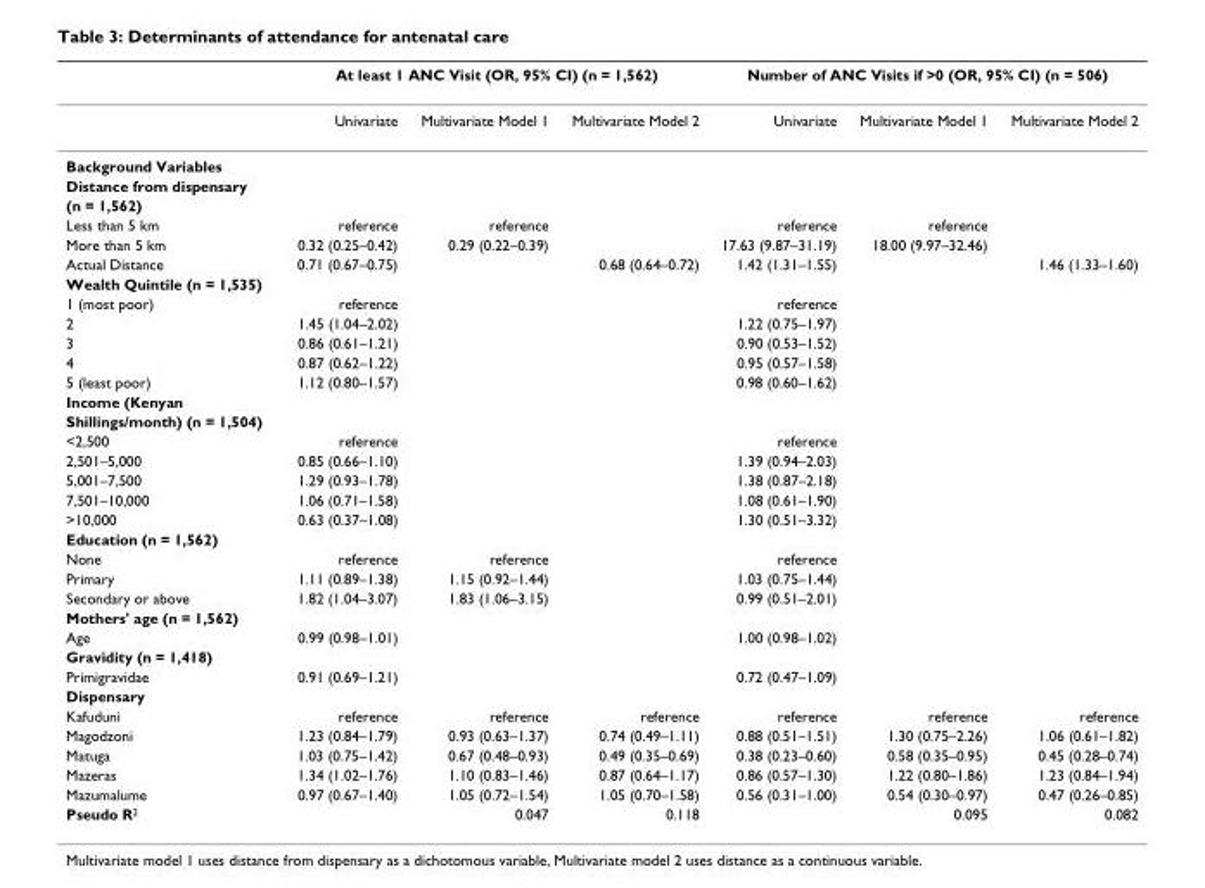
<table><thead><tr><td rowspan="2"></td><td colspan="3">At least 1 ANC Visit (OR, 95% CI) (n = 1,562)</td><td colspan="3">Number of ANC Visits if &gt;0 (OR, 95% CI) (n = 506)</td></tr><tr><td>Univariate</td><td>Multivariate Model 1</td><td>Multivariate Model 2</td><td>Univariate</td><td>Multivariate Model 1</td><td>Multivariate Model 2</td></tr></thead><tbody><tr><td colspan="7">Background Variables</td></tr><tr><td colspan="7">Distance from dispensary</td></tr><tr><td colspan="7">(n = 1,562)</td></tr><tr><td>Less than 5 km</td><td>reference</td><td>reference</td><td></td><td>reference</td><td>reference</td><td></td></tr><tr><td>More than 5 km</td><td>0.32 (0.25–0.42)</td><td>0.29 (0.22–0.39)</td><td></td><td>17.63 (9.87–31.19)</td><td>18.00 (9.97–32.46)</td><td></td></tr><tr><td>Actual Distance</td><td>0.71 (0.67–0.75)</td><td></td><td>0.68 (0.64–0.72)</td><td>1.42 (1.31–1.55)</td><td></td><td>1.46 (1.33–1.60)</td></tr><tr><td colspan="7">Wealth Quintile (n = 1,535)</td></tr><tr><td>1 (most poor)</td><td>reference</td><td></td><td></td><td>reference</td><td></td><td></td></tr><tr><td>2</td><td>1.45 (1.04–2.02)</td><td></td><td></td><td>1.22 (0.75–1.97)</td><td></td><td></td></tr><tr><td>3</td><td>0.86 (0.61–1.21)</td><td></td><td></td><td>0.90 (0.53–1.52)</td><td></td><td></td></tr><tr><td>4</td><td>0.87 (0.62–1.22)</td><td></td><td></td><td>0.95 (0.57–1.58)</td><td></td><td></td></tr><tr><td>5 (least poor)</td><td>1.12 (0.80–1.57)</td><td></td><td></td><td>0.98 (0.60–1.62)</td><td></td><td></td></tr><tr><td colspan="7">Income (Kenyan</td></tr><tr><td colspan="7">Shillings/month) (n = 1,504)</td></tr><tr><td>&lt;2,500</td><td>reference</td><td></td><td></td><td>reference</td><td></td><td></td></tr><tr><td>2,501–5,000</td><td>0.85 (0.66–1.10)</td><td></td><td></td><td>1.39 (0.94–2.03)</td><td></td><td></td></tr><tr><td>5,001–7,500</td><td>1.29 (0.93–1.78)</td><td></td><td></td><td>1.38 (0.87–2.18)</td><td></td><td></td></tr><tr><td>7,501–10,000</td><td>1.06 (0.71–1.58)</td><td></td><td></td><td>1.08 (0.61–1.90)</td><td></td><td></td></tr><tr><td>&gt;10,000</td><td>0.63 (0.37–1.08)</td><td></td><td></td><td>1.30 (0.51–3.32)</td><td></td><td></td></tr><tr><td colspan="7">Education (n = 1,562)</td></tr><tr><td>None</td><td>reference</td><td>reference</td><td></td><td>reference</td><td></td><td></td></tr><tr><td>Primary</td><td>1.11 (0.89–1.38)</td><td>1.15 (0.92–1.44)</td><td></td><td>1.03 (0.75–1.44)</td><td></td><td></td></tr><tr><td>Secondary or above</td><td>1.82 (1.04–3.07)</td><td>1.83 (1.06–3.15)</td><td></td><td>0.99 (0.51–2.01)</td><td></td><td></td></tr><tr><td colspan="7">Mothers&#x27; age (n = 1,562)</td></tr><tr><td>Age</td><td>0.99 (0.98–1.01)</td><td></td><td></td><td>1.00 (0.98–1.02)</td><td></td><td></td></tr><tr><td colspan="7">Gravidity (n = 1,418)</td></tr><tr><td>Primigravidae</td><td>0.91 (0.69–1.21)</td><td></td><td></td><td>0.72 (0.47–1.09)</td><td></td><td></td></tr><tr><td colspan="7">Dispensary</td></tr><tr><td>Kafuduni</td><td>reference</td><td>reference</td><td>reference</td><td>reference</td><td>reference</td><td>reference</td></tr><tr><td>Magodzoni</td><td>1.23 (0.84–1.79)</td><td>0.93 (0.63–1.37)</td><td>0.74 (0.49–1.11)</td><td>0.88 (0.51–1.51)</td><td>1.30 (0.75–2.26)</td><td>1.06 (0.61–1.82)</td></tr><tr><td>Matuga</td><td>1.03 (0.75–1.42)</td><td>0.67 (0.48–0.93)</td><td>0.49 (0.35–0.69)</td><td>0.38 (0.23–0.60)</td><td>0.58 (0.35–0.95)</td><td>0.45 (0.28–0.74)</td></tr><tr><td>Mazeras</td><td>1.34 (1.02–1.76)</td><td>1.10 (0.83–1.46)</td><td>0.87 (0.64–1.17)</td><td>0.86 (0.57–1.30)</td><td>1.22 (0.80–1.86)</td><td>1.23 (0.84–1.94)</td></tr><tr><td>Mazumalume</td><td>0.97 (0.67–1.40)</td><td>1.05 (0.72–1.54)</td><td>1.05 (0.70–1.58)</td><td>0.56 (0.31–1.00)</td><td>0.54 (0.30–0.97)</td><td>0.47 (0.26–0.85)</td></tr><tr><td>Pseudo R<sup>2</sup></td><td></td><td>0.047</td><td>0.118</td><td></td><td>0.095</td><td>0.082</td></tr></tbody></table>